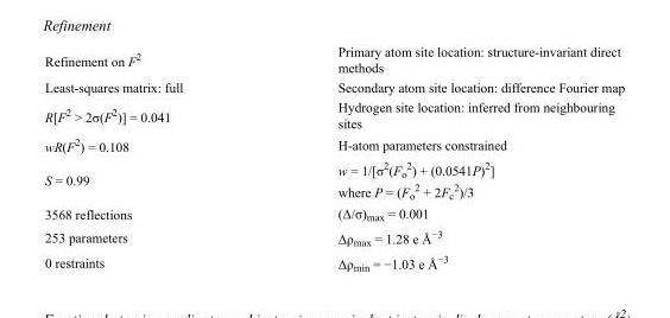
<table><tbody><tr><td>Refinement on F<sup>2</sup></td><td>Primary atom site location: structure-invariant direct methods</td></tr><tr><td>Least-squares matrix: full</td><td>Secondary atom site location: difference Fourier map</td></tr><tr><td>R[F<sup>2</sup> &gt; 2σ(F<sup>2</sup>)] = 0.041</td><td>Hydrogen site location: inferred from neighbouring sites</td></tr><tr><td>wR(F<sup>2</sup>) = 0.108</td><td>H-atom parameters constrained</td></tr><tr><td>S = 0.99</td><td>w = 1/[σ<sup>2</sup>(F<sub>o</sub> <sup>2</sup>) + (0.0541P)<sup>2</sup>] where P = (F<sub>o</sub> <sup>2</sup> + 2F<sub>c</sub> <sup>2</sup>)/3</td></tr><tr><td>3568 reflections</td><td>(Δ/σ)<sub>max</sub> = 0.001</td></tr><tr><td>253 parameters</td><td>Δρ<sub>max</sub> = 1.28 e Å<sup>−3</sup></td></tr><tr><td>0 restraints</td><td>Δρ<sub>min</sub> = −1.03 e Å<sup>−3</sup></td></tr></tbody></table>